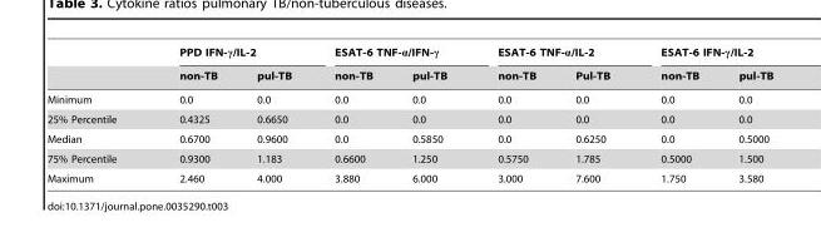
<table><thead><tr><td rowspan="2"></td><td colspan="2">PPD IFN-γ/IL-2</td><td colspan="2">ESAT-6 TNF-α/IFN-γ</td><td colspan="2">ESAT-6 TNF-α/IL-2</td><td colspan="2">ESAT-6 IFN-γ/IL-2</td></tr><tr><td>non-TB</td><td>pul-TB</td><td>non-TB</td><td>pul-TB</td><td>non-TB</td><td>Pul-TB</td><td>non-TB</td><td>pul-TB</td></tr></thead><tbody><tr><td>Minimum</td><td>0.0</td><td>0.0</td><td>0.0</td><td>0.0</td><td>0.0</td><td>0.0</td><td>0.0</td><td>0.0</td></tr><tr><td>25% Percentile</td><td>0.4325</td><td>0.6650</td><td>0.0</td><td>0.0</td><td>0.0</td><td>0.0</td><td>0.0</td><td>0.0</td></tr><tr><td>Median</td><td>0.6700</td><td>0.9600</td><td>0.0</td><td>0.5850</td><td>0.0</td><td>0.6250</td><td>0.0</td><td>0.5000</td></tr><tr><td>75% Percentile</td><td>0.9300</td><td>1.183</td><td>0.6600</td><td>1.250</td><td>0.5750</td><td>1.785</td><td>0.5000</td><td>1.500</td></tr><tr><td>Maximum</td><td>2.460</td><td>4.000</td><td>3.880</td><td>6.000</td><td>3.000</td><td>7.600</td><td>1.750</td><td>3.580</td></tr></tbody></table>